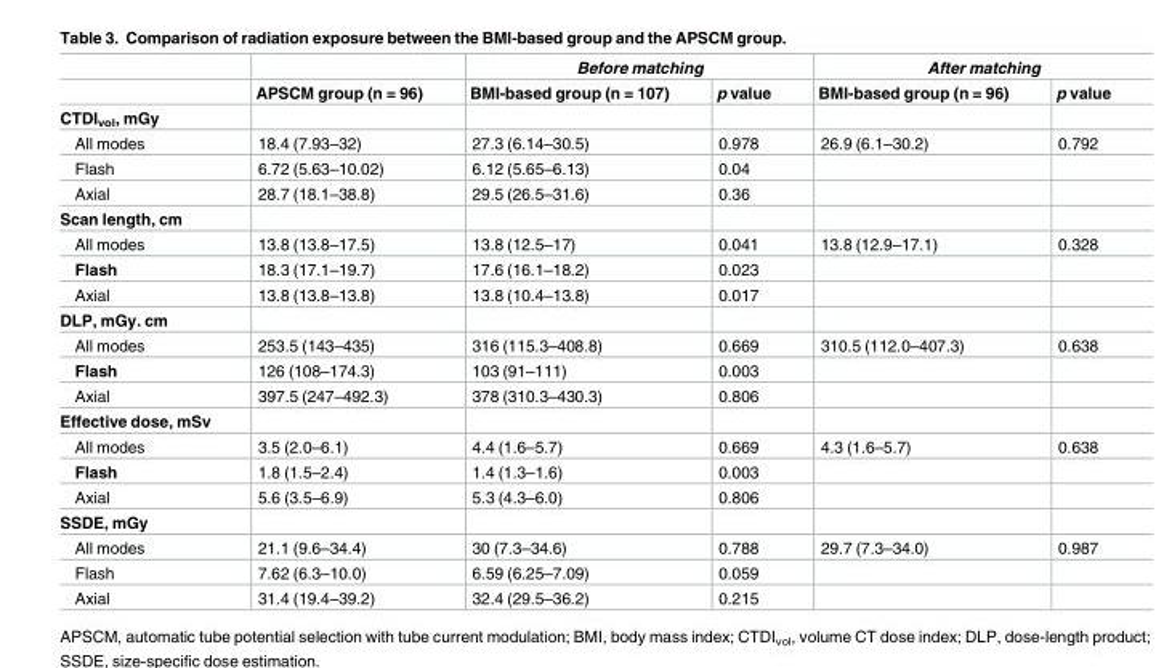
<table><thead><tr><td rowspan="2"></td><td rowspan="2">APSCM group (n = 96)</td><td colspan="2">Before matching</td><td colspan="2">After matching</td></tr><tr><td>BMI-based group (n = 107)</td><td>p value</td><td>BMI-based group (n = 96)</td><td>p value</td></tr></thead><tbody><tr><td colspan="6">CTDI<sub>vol</sub>, mGy</td></tr><tr><td>All modes</td><td>18.4 (7.93–32)</td><td>27.3 (6.14–30.5)</td><td>0.978</td><td>26.9 (6.1–30.2)</td><td>0.792</td></tr><tr><td>Flash</td><td>6.72 (5.63–10.02)</td><td>6.12 (5.65–6.13)</td><td>0.04</td><td></td><td></td></tr><tr><td>Axial</td><td>28.7 (18.1–38.8)</td><td>29.5 (26.5–31.6)</td><td>0.36</td><td></td><td></td></tr><tr><td colspan="6">Scan length, cm</td></tr><tr><td>All modes</td><td>13.8 (13.8–17.5)</td><td>13.8 (12.5–17)</td><td>0.041</td><td>13.8 (12.9–17.1)</td><td>0.328</td></tr><tr><td>Flash</td><td>18.3 (17.1–19.7)</td><td>17.6 (16.1–18.2)</td><td>0.023</td><td></td><td></td></tr><tr><td>Axial</td><td>13.8 (13.8–13.8)</td><td>13.8 (10.4–13.8)</td><td>0.017</td><td></td><td></td></tr><tr><td colspan="6">DLP, mGy. cm</td></tr><tr><td>All modes</td><td>253.5 (143–435)</td><td>316 (115.3–408.8)</td><td>0.669</td><td>310.5 (112.0–407.3)</td><td>0.638</td></tr><tr><td>Flash</td><td>126 (108–174.3)</td><td>103 (91–111)</td><td>0.003</td><td></td><td></td></tr><tr><td>Axial</td><td>397.5 (247–492.3)</td><td>378 (310.3–430.3)</td><td>0.806</td><td></td><td></td></tr><tr><td colspan="6">Effective dose, mSv</td></tr><tr><td>All modes</td><td>3.5 (2.0–6.1)</td><td>4.4 (1.6–5.7)</td><td>0.669</td><td>4.3 (1.6–5.7)</td><td>0.638</td></tr><tr><td>Flash</td><td>1.8 (1.5–2.4)</td><td>1.4 (1.3–1.6)</td><td>0.003</td><td></td><td></td></tr><tr><td>Axial</td><td>5.6 (3.5–6.9)</td><td>5.3 (4.3–6.0)</td><td>0.806</td><td></td><td></td></tr><tr><td colspan="6">SSDE, mGy</td></tr><tr><td>All modes</td><td>21.1 (9.6–34.4)</td><td>30 (7.3–34.6)</td><td>0.788</td><td>29.7 (7.3–34.0)</td><td>0.987</td></tr><tr><td>Flash</td><td>7.62 (6.3–10.0)</td><td>6.59 (6.25–7.09)</td><td>0.059</td><td></td><td></td></tr><tr><td>Axial</td><td>31.4 (19.4–39.2)</td><td>32.4 (29.5–36.2)</td><td>0.215</td><td></td><td></td></tr></tbody></table>